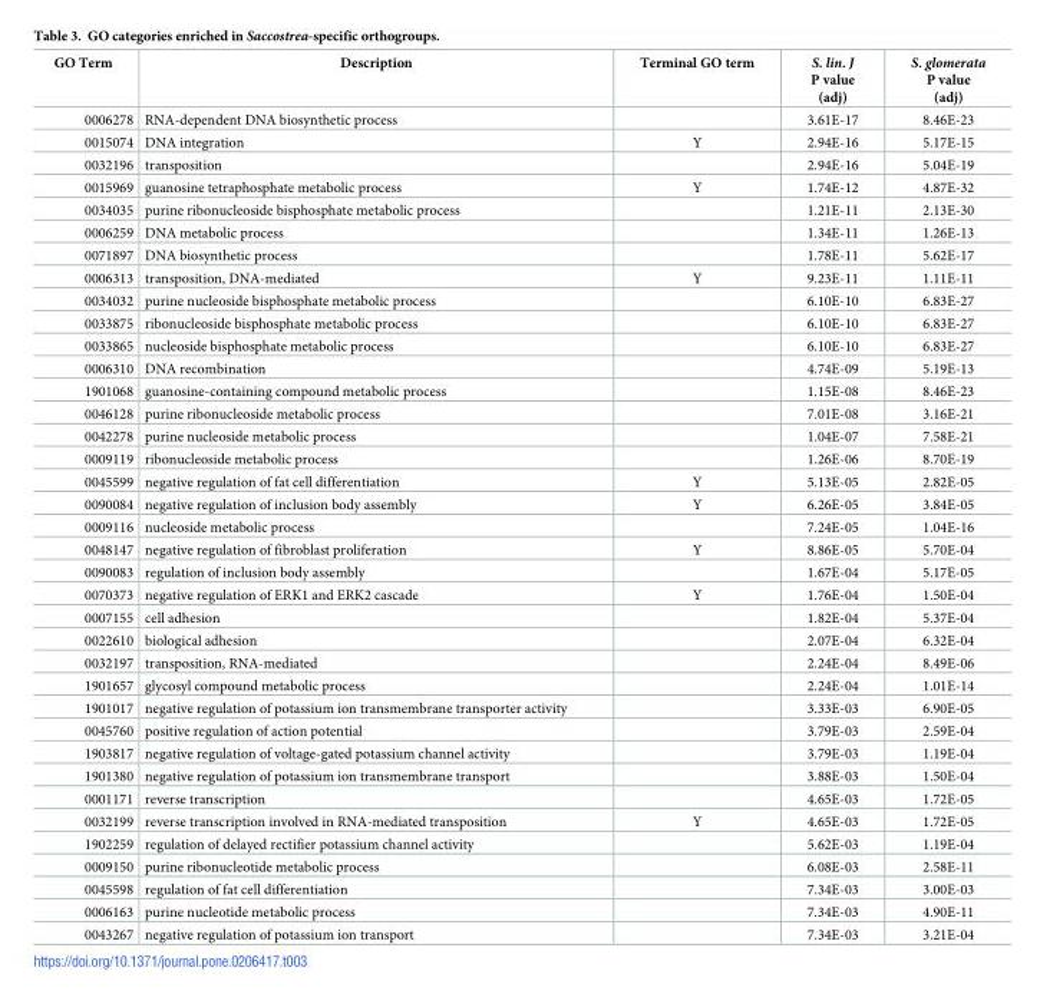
<table><thead><tr><td>GO Term</td><td>Description</td><td>Terminal GO term</td><td>S. lin. J P value (adj)</td><td>S. glomerata P value (adj)</td></tr></thead><tbody><tr><td>0006278</td><td>RNA-dependent DNA biosynthetic process</td><td></td><td>3.61E-17</td><td>8.46E-23</td></tr><tr><td>0015074</td><td>DNA integration</td><td>Y</td><td>2.94E-16</td><td>5.17E-15</td></tr><tr><td>0032196</td><td>transposition</td><td></td><td>2.94E-16</td><td>5.04E-19</td></tr><tr><td>0015969</td><td>guanosine tetraphosphate metabolic process</td><td>Y</td><td>1.74E-12</td><td>4.87E-32</td></tr><tr><td>0034035</td><td>purine ribonucleoside bisphosphate metabolic process</td><td></td><td>1.21E-11</td><td>2.13E-30</td></tr><tr><td>0006259</td><td>DNA metabolic process</td><td></td><td>1.34E-11</td><td>1.26E-13</td></tr><tr><td>0071897</td><td>DNA biosynthetic process</td><td></td><td>1.78E-11</td><td>5.62E-17</td></tr><tr><td>0006313</td><td>transposition, DNA-mediated</td><td>Y</td><td>9.23E-11</td><td>1.11E-11</td></tr><tr><td>0034032</td><td>purine nucleoside bisphosphate metabolic process</td><td></td><td>6.10E-10</td><td>6.83E-27</td></tr><tr><td>0033875</td><td>ribonucleoside bisphosphate metabolic process</td><td></td><td>6.10E-10</td><td>6.83E-27</td></tr><tr><td>0033865</td><td>nucleoside bisphosphate metabolic process</td><td></td><td>6.10E-10</td><td>6.83E-27</td></tr><tr><td>0006310</td><td>DNA recombination</td><td></td><td>4.74E-09</td><td>5.19E-13</td></tr><tr><td>1901068</td><td>guanosine-containing compound metabolic process</td><td></td><td>1.15E-08</td><td>8.46E-23</td></tr><tr><td>0046128</td><td>purine ribonucleoside metabolic process</td><td></td><td>7.01E-08</td><td>3.16E-21</td></tr><tr><td>0042278</td><td>purine nucleoside metabolic process</td><td></td><td>1.04E-07</td><td>7.58E-21</td></tr><tr><td>0009119</td><td>ribonucleoside metabolic process</td><td></td><td>1.26E-06</td><td>8.70E-19</td></tr><tr><td>0045599</td><td>negative regulation of fat cell differentiation</td><td>Y</td><td>5.13E-05</td><td>2.82E-05</td></tr><tr><td>0090084</td><td>negative regulation of inclusion body assembly</td><td>Y</td><td>6.26E-05</td><td>3.84E-05</td></tr><tr><td>0009116</td><td>nucleoside metabolic process</td><td></td><td>7.24E-05</td><td>1.04E-16</td></tr><tr><td>0048147</td><td>negative regulation of fibroblast proliferation</td><td>Y</td><td>8.86E-05</td><td>5.70E-04</td></tr><tr><td>0090083</td><td>regulation of inclusion body assembly</td><td></td><td>1.67E-04</td><td>5.17E-05</td></tr><tr><td>0070373</td><td>negative regulation of ERK1 and ERK2 cascade</td><td>Y</td><td>1.76E-04</td><td>1.50E-04</td></tr><tr><td>0007155</td><td>cell adhesion</td><td></td><td>1.82E-04</td><td>5.37E-04</td></tr><tr><td>0022610</td><td>biological adhesion</td><td></td><td>2.07E-04</td><td>6.32E-04</td></tr><tr><td>0032197</td><td>transposition, RNA-mediated</td><td></td><td>2.24E-04</td><td>8.49E-06</td></tr><tr><td>1901657</td><td>glycosyl compound metabolic process</td><td></td><td>2.24E-04</td><td>1.01E-14</td></tr><tr><td>1901017</td><td>negative regulation of potassium ion transmembrane transporter activity</td><td></td><td>3.33E-03</td><td>6.90E-05</td></tr><tr><td>0045760</td><td>positive regulation of action potential</td><td></td><td>3.79E-03</td><td>2.59E-04</td></tr><tr><td>1903817</td><td>negative regulation of voltage-gated potassium channel activity</td><td></td><td>3.79E-03</td><td>1.19E-04</td></tr><tr><td>1901380</td><td>negative regulation of potassium ion transmembrane transport</td><td></td><td>3.88E-03</td><td>1.50E-04</td></tr><tr><td>0001171</td><td>reverse transcription</td><td></td><td>4.65E-03</td><td>1.72E-05</td></tr><tr><td>0032199</td><td>reverse transcription involved in RNA-mediated transposition</td><td>Y</td><td>4.65E-03</td><td>1.72E-05</td></tr><tr><td>1902259</td><td>regulation of delayed rectifier potassium channel activity</td><td></td><td>5.62E-03</td><td>1.19E-04</td></tr><tr><td>0009150</td><td>purine ribonucleotide metabolic process</td><td></td><td>6.08E-03</td><td>2.58E-11</td></tr><tr><td>0045598</td><td>regulation of fat cell differentiation</td><td></td><td>7.34E-03</td><td>3.00E-03</td></tr><tr><td>0006163</td><td>purine nucleotide metabolic process</td><td></td><td>7.34E-03</td><td>4.90E-11</td></tr><tr><td>0043267</td><td>negative regulation of potassium ion transport</td><td></td><td>7.34E-03</td><td>3.21E-04</td></tr></tbody></table>